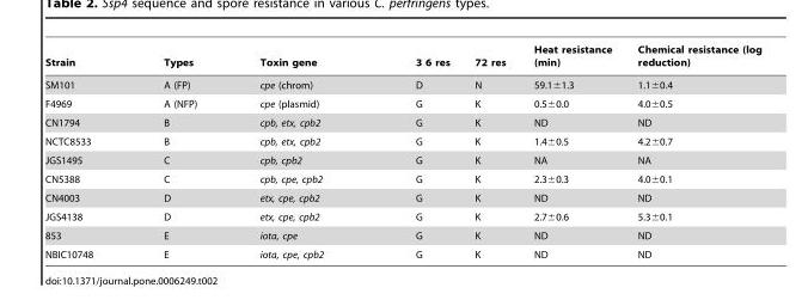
<table><thead><tr><td>Strain</td><td>Types</td><td>Toxin gene</td><td>3 6 res</td><td>72 res</td><td>Heat resistance (min)</td><td>Chemical resistance (log reduction)</td></tr></thead><tbody><tr><td>SM101</td><td>A (FP)</td><td>cpe (chrom)</td><td>D</td><td>N</td><td>59.1±1.3</td><td>1.1±0.4</td></tr><tr><td>F4969</td><td>A (NFP)</td><td>cpe (plasmid)</td><td>G</td><td>K</td><td>0.5±0.0</td><td>4.0±0.5</td></tr><tr><td>CN1794</td><td>B</td><td>cpb, etx, cpb2</td><td>G</td><td>K</td><td>ND</td><td>ND</td></tr><tr><td>NCTC8533</td><td>B</td><td>cpb, etx, cpb2</td><td>G</td><td>K</td><td>1.4±0.5</td><td>4.2±0.7</td></tr><tr><td>JGS1495</td><td>C</td><td>cpb, cpb2</td><td>G</td><td>K</td><td>NA</td><td>NA</td></tr><tr><td>CN5388</td><td>C</td><td>cpb, cpe, cpb2</td><td>G</td><td>K</td><td>2.3±0.3</td><td>4.0±0.1</td></tr><tr><td>CN4003</td><td>D</td><td>etx, cpe, cpb2</td><td>G</td><td>K</td><td>ND</td><td>ND</td></tr><tr><td>JGS4138</td><td>D</td><td>etx, cpe, cpb2</td><td>G</td><td>K</td><td>2.7±0.6</td><td>5.3±0.1</td></tr><tr><td>853</td><td>E</td><td>iota, cpe</td><td>G</td><td>K</td><td>ND</td><td>ND</td></tr><tr><td>NBIC10748</td><td>E</td><td>iota, cpe, cpb2</td><td>G</td><td>K</td><td>ND</td><td>ND</td></tr></tbody></table>